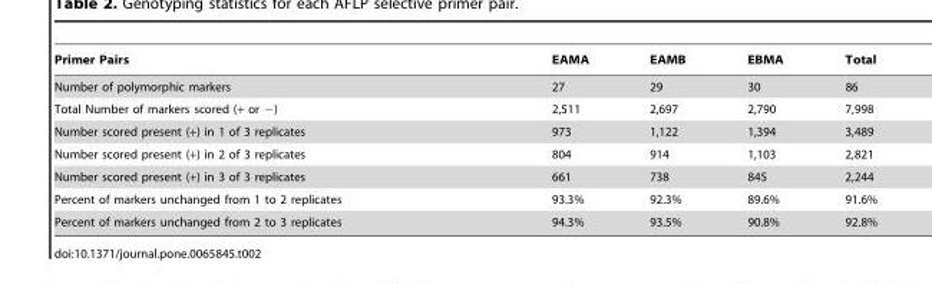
<table><thead><tr><td>Primer Pairs</td><td>EAMA</td><td>EAMB</td><td>EBMA</td><td>Total</td></tr></thead><tbody><tr><td>Number of polymorphic markers</td><td>27</td><td>29</td><td>30</td><td>86</td></tr><tr><td>Total Number of markers scored (+ or −)</td><td>2,511</td><td>2,697</td><td>2,790</td><td>7,998</td></tr><tr><td>Number scored present (+) in 1 of 3 replicates</td><td>973</td><td>1,122</td><td>1,394</td><td>3,489</td></tr><tr><td>Number scored present (+) in 2 of 3 replicates</td><td>804</td><td>914</td><td>1,103</td><td>2,821</td></tr><tr><td>Number scored present (+) in 3 of 3 replicates</td><td>661</td><td>738</td><td>845</td><td>2,244</td></tr><tr><td>Percent of markers unchanged from 1 to 2 replicates</td><td>93.3%</td><td>92.3%</td><td>89.6%</td><td>91.6%</td></tr><tr><td>Percent of markers unchanged from 2 to 3 replicates</td><td>94.3%</td><td>93.5%</td><td>90.8%</td><td>92.8%</td></tr></tbody></table>